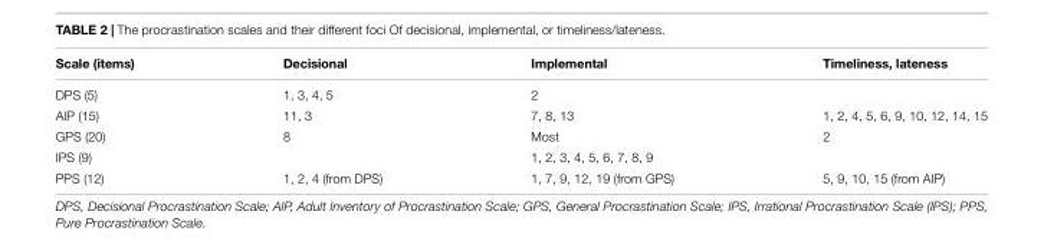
<table><thead><tr><td>Scale (items)</td><td>Decisional</td><td>Implemental</td><td>Timeliness, lateness</td></tr></thead><tbody><tr><td>DPS (5)</td><td>1, 3, 4, 5</td><td>2</td><td></td></tr><tr><td>AIP (15)</td><td>11, 3</td><td>7, 8, 13</td><td>1, 2, 4, 5, 6, 9, 10, 12, 14, 15</td></tr><tr><td>GPS (20)</td><td>8</td><td>Most</td><td>2</td></tr><tr><td>IPS (9)</td><td></td><td>1, 2, 3, 4, 5, 6, 7, 8, 9</td><td></td></tr><tr><td>PPS (12)</td><td>1, 2, 4 (from DPS)</td><td>1, 7, 9, 12, 19 (from GPS)</td><td>5, 9, 10, 15 (from AIP)</td></tr></tbody></table>